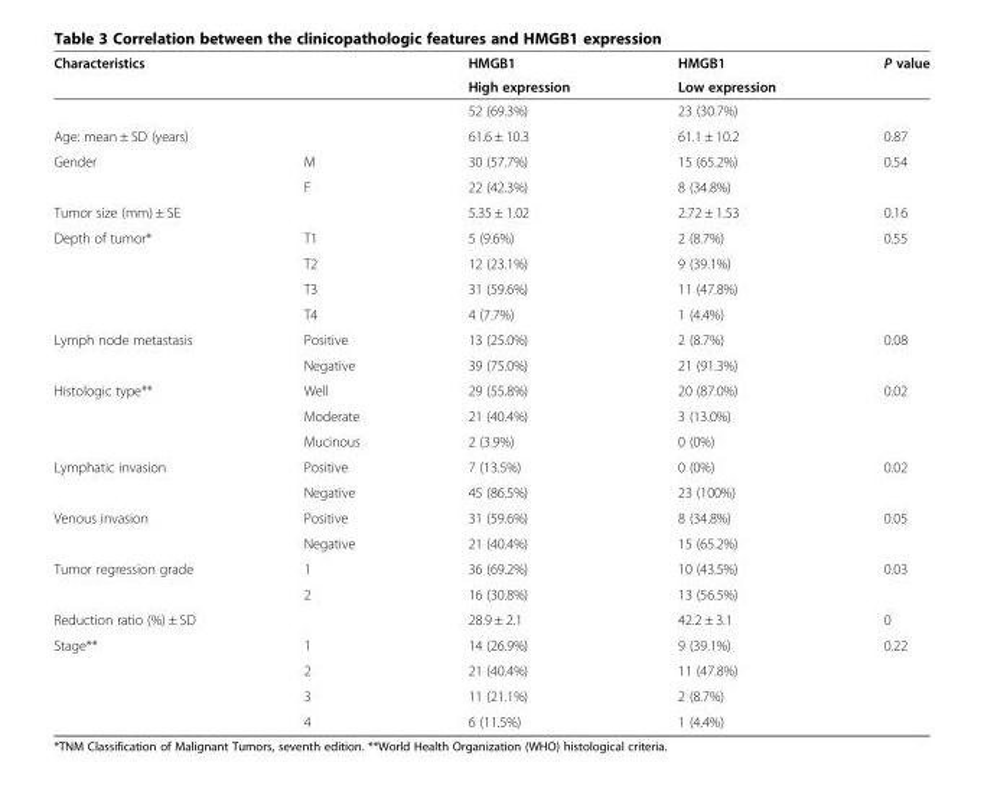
<table><thead><tr><td colspan="2">Characteristics</td><td rowspan="2">HMGB1 High expression</td><td rowspan="2">HMGB1 Low expression</td><td rowspan="2">P value</td></tr><tr><td></td><td></td></tr></thead><tbody><tr><td colspan="2"></td><td>52 (69.3%)</td><td>23 (30.7%)</td><td></td></tr><tr><td>Age: mean ± SD (years)</td><td></td><td>61.6 ± 10.3</td><td>61.1 ± 10.2</td><td>0.87</td></tr><tr><td rowspan="2">Gender</td><td>M</td><td>30 (57.7%)</td><td>15 (65.2%)</td><td>0.54</td></tr><tr><td>F</td><td>22 (42.3%)</td><td>8 (34.8%)</td><td></td></tr><tr><td>Tumor size (mm) ± SE</td><td></td><td>5.35 ± 1.02</td><td>2.72 ± 1.53</td><td>0.16</td></tr><tr><td rowspan="4">Depth of tumor*</td><td>T1</td><td>5 (9.6%)</td><td>2 (8.7%)</td><td>0.55</td></tr><tr><td>T2</td><td>12 (23.1%)</td><td>9 (39.1%)</td><td></td></tr><tr><td>T3</td><td>31 (59.6%)</td><td>11 (47.8%)</td><td></td></tr><tr><td>T4</td><td>4 (7.7%)</td><td>1 (4.4%)</td><td></td></tr><tr><td rowspan="2">Lymph node metastasis</td><td>Positive</td><td>13 (25.0%)</td><td>2 (8.7%)</td><td>0.08</td></tr><tr><td>Negative</td><td>39 (75.0%)</td><td>21 (91.3%)</td><td></td></tr><tr><td rowspan="3">Histologic type**</td><td>Well</td><td>29 (55.8%)</td><td>20 (87.0%)</td><td>0.02</td></tr><tr><td>Moderate</td><td>21 (40.4%)</td><td>3 (13.0%)</td><td></td></tr><tr><td>Mucinous</td><td>2 (3.9%)</td><td>0 (0%)</td><td></td></tr><tr><td rowspan="2">Lymphatic invasion</td><td>Positive</td><td>7 (13.5%)</td><td>0 (0%)</td><td>0.02</td></tr><tr><td>Negative</td><td>45 (86.5%)</td><td>23 (100%)</td><td></td></tr><tr><td rowspan="2">Venous invasion</td><td>Positive</td><td>31 (59.6%)</td><td>8 (34.8%)</td><td>0.05</td></tr><tr><td>Negative</td><td>21 (40.4%)</td><td>15 (65.2%)</td><td></td></tr><tr><td rowspan="2">Tumor regression grade</td><td>1</td><td>36 (69.2%)</td><td>10 (43.5%)</td><td>0.03</td></tr><tr><td>2</td><td>16 (30.8%)</td><td>13 (56.5%)</td><td></td></tr><tr><td>Reduction ratio (%) ± SD</td><td></td><td>28.9 ± 2.1</td><td>42.2 ± 3.1</td><td>0</td></tr><tr><td rowspan="4">Stage**</td><td>1</td><td>14 (26.9%)</td><td>9 (39.1%)</td><td>0.22</td></tr><tr><td>2</td><td>21 (40.4%)</td><td>11 (47.8%)</td><td></td></tr><tr><td>3</td><td>11 (21.1%)</td><td>2 (8.7%)</td><td></td></tr><tr><td>4</td><td>6 (11.5%)</td><td>1 (4.4%)</td><td></td></tr></tbody></table>